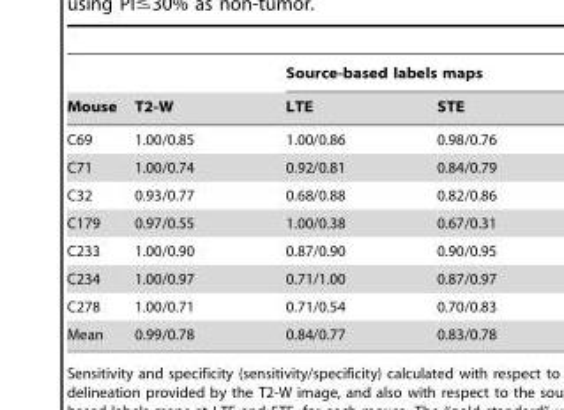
<table><thead><tr><td rowspan="2">Mouse</td><td rowspan="2">T2-W</td><td colspan="2">Source-based labels maps</td></tr><tr><td>LTE</td><td>STE</td></tr></thead><tbody><tr><td>C69</td><td>1.00/0.85</td><td>1.00/0.86</td><td>0.98/0.76</td></tr><tr><td>C71</td><td>1.00/0.74</td><td>0.92/0.81</td><td>0.84/0.79</td></tr><tr><td>C32</td><td>0.93/0.77</td><td>0.68/0.88</td><td>0.82/0.86</td></tr><tr><td>C179</td><td>0.97/0.55</td><td>1.00/0.38</td><td>0.67/0.31</td></tr><tr><td>C233</td><td>1.00/0.90</td><td>0.87/0.90</td><td>0.90/0.95</td></tr><tr><td>C234</td><td>1.00/0.97</td><td>0.71/1.00</td><td>0.87/0.97</td></tr><tr><td>C278</td><td>1.00/0.71</td><td>0.71/0.54</td><td>0.70/0.83</td></tr><tr><td>Mean</td><td>0.99/0.78</td><td>0.84/0.77</td><td>0.83/0.78</td></tr></tbody></table>